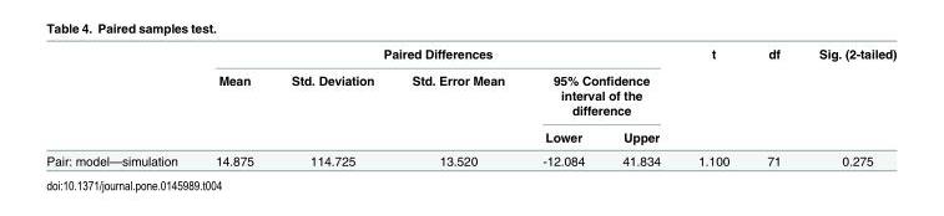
<table><thead><tr><td rowspan="3"></td><td colspan="5">Paired Differences</td><td rowspan="3">t</td><td rowspan="3">df</td><td rowspan="3">Sig. (2-tailed)</td></tr><tr><td rowspan="2">Mean</td><td rowspan="2">Std. Deviation</td><td rowspan="2">Std. Error Mean</td><td colspan="2">95% Confidence interval of the difference</td></tr><tr><td>Lower</td><td>Upper</td></tr></thead><tbody><tr><td>Pair: model—simulation</td><td>14.875</td><td>114.725</td><td>13.520</td><td>-12.084</td><td>41.834</td><td>1.100</td><td>71</td><td>0.275</td></tr></tbody></table>